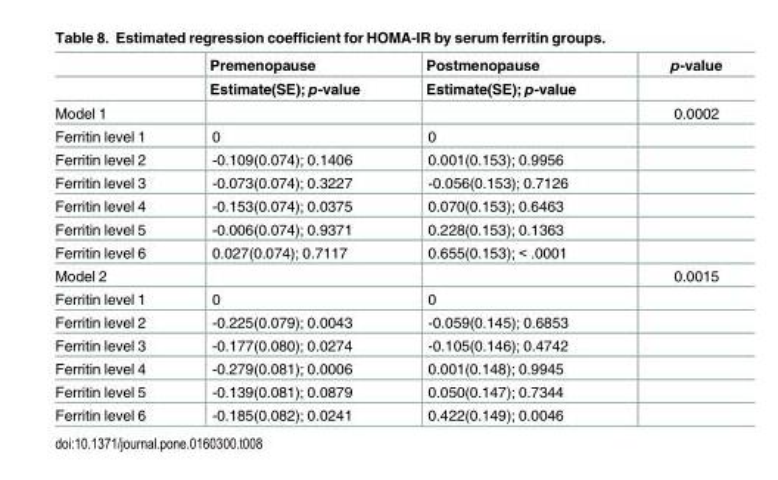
<table><thead><tr><td rowspan="2"></td><td rowspan="2">Premenopause Estimate(SE); p-value</td><td rowspan="2">Postmenopause Estimate(SE); p-value</td><td rowspan="2">p-value</td></tr><tr></tr></thead><tbody><tr><td>Model 1</td><td></td><td></td><td>0.0002</td></tr><tr><td>Ferritin level 1</td><td>0</td><td>0</td><td></td></tr><tr><td>Ferritin level 2</td><td>-0.109(0.074); 0.1406</td><td>0.001(0.153); 0.9956</td><td></td></tr><tr><td>Ferritin level 3</td><td>-0.073(0.074); 0.3227</td><td>-0.056(0.153); 0.7126</td><td></td></tr><tr><td>Ferritin level 4</td><td>-0.153(0.074); 0.0375</td><td>0.070(0.153); 0.6463</td><td></td></tr><tr><td>Ferritin level 5</td><td>-0.006(0.074); 0.9371</td><td>0.228(0.153); 0.1363</td><td></td></tr><tr><td>Ferritin level 6</td><td>0.027(0.074); 0.7117</td><td>0.655(0.153); &lt; .0001</td><td></td></tr><tr><td>Model 2</td><td></td><td></td><td>0.0015</td></tr><tr><td>Ferritin level 1</td><td>0</td><td>0</td><td></td></tr><tr><td>Ferritin level 2</td><td>-0.225(0.079); 0.0043</td><td>-0.059(0.145); 0.6853</td><td></td></tr><tr><td>Ferritin level 3</td><td>-0.177(0.080); 0.0274</td><td>-0.105(0.146); 0.4742</td><td></td></tr><tr><td>Ferritin level 4</td><td>-0.279(0.081); 0.0006</td><td>0.001(0.148); 0.9945</td><td></td></tr><tr><td>Ferritin level 5</td><td>-0.139(0.081); 0.0879</td><td>0.050(0.147); 0.7344</td><td></td></tr><tr><td>Ferritin level 6</td><td>-0.185(0.082); 0.0241</td><td>0.422(0.149); 0.0046</td><td></td></tr></tbody></table>